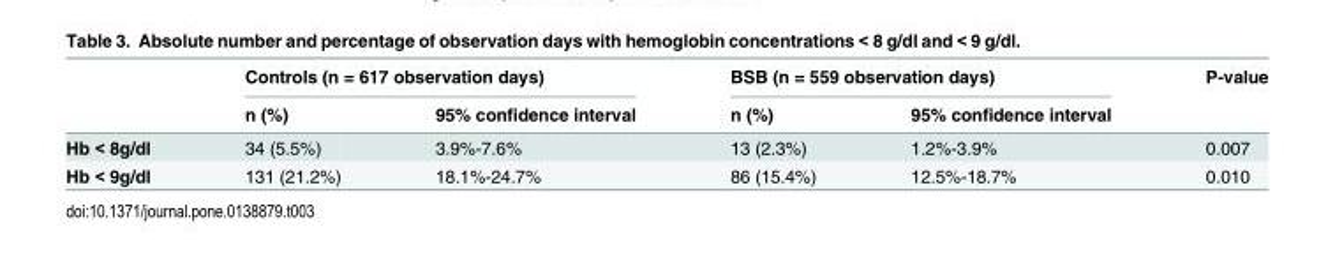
<table><thead><tr><td rowspan="2"></td><td colspan="2">Controls (n = 617 observation days)</td><td colspan="2">BSB (n = 559 observation days)</td><td rowspan="2">P-value</td></tr><tr><td>n (%)</td><td>95% confidence interval</td><td>n (%)</td><td>95% confidence interval</td></tr></thead><tbody><tr><td>Hb &lt; 8g/dl</td><td>34 (5.5%)</td><td>3.9%-7.6%</td><td>13 (2.3%)</td><td>1.2%-3.9%</td><td>0.007</td></tr><tr><td>Hb &lt; 9g/dl</td><td>131 (21.2%)</td><td>18.1%-24.7%</td><td>86 (15.4%)</td><td>12.5%-18.7%</td><td>0.010</td></tr></tbody></table>